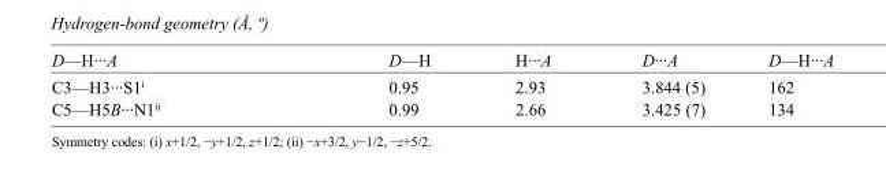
<table><tbody><tr><td>D—H···A</td><td>D—H</td><td>H···A</td><td>D···A</td><td>D—H···A</td></tr><tr><td>C3—H3···S1<sup>i</sup></td><td>0.95</td><td>2.93</td><td>3.844 (5)</td><td>162</td></tr><tr><td>C5—H5B···N1<sup>ii</sup></td><td>0.99</td><td>2.66</td><td>3.425 (7)</td><td>134</td></tr></tbody></table>